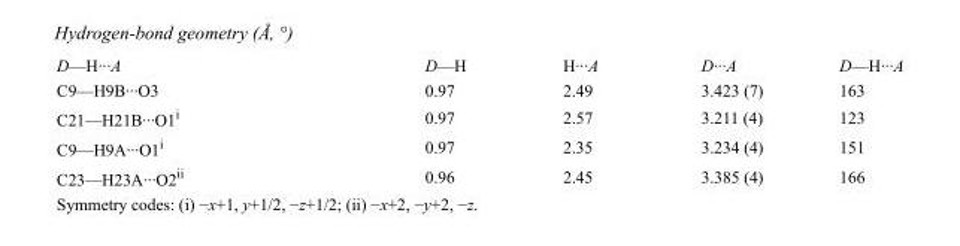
<table><tbody><tr><td>D—H···A</td><td>D—H</td><td>H···A</td><td>D···A</td><td>D—H···A</td></tr><tr><td>C9—H9B···O3</td><td>0.97</td><td>2.49</td><td>3.423 (7)</td><td>163</td></tr><tr><td>C21—H21B···O1<sup>i</sup></td><td>0.97</td><td>2.57</td><td>3.211 (4)</td><td>123</td></tr><tr><td>C9—H9A···O1<sup>i</sup></td><td>0.97</td><td>2.35</td><td>3.234 (4)</td><td>151</td></tr><tr><td>C23—H23A···O2<sup>ii</sup></td><td>0.96</td><td>2.45</td><td>3.385 (4)</td><td>166</td></tr></tbody></table>